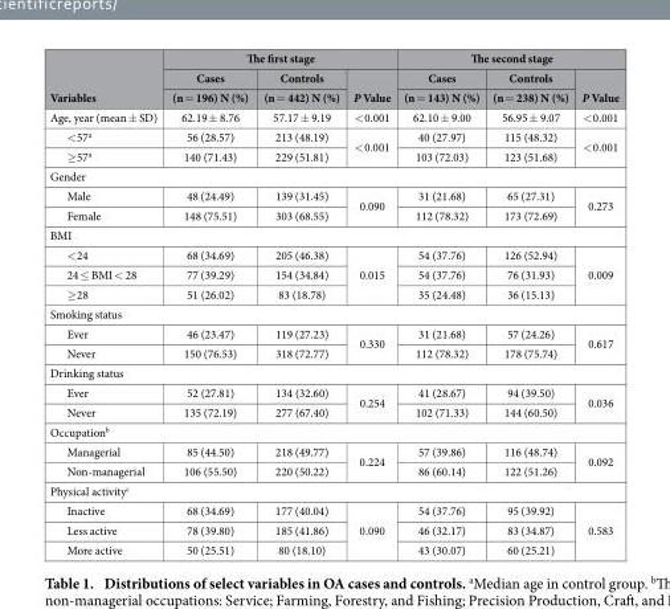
<table><thead><tr><td rowspan="3">Variables</td><td colspan="3">The first stage</td><td colspan="3">The second stage</td></tr><tr><td rowspan="2">Cases (n = 196) N (%)</td><td rowspan="2">Controls (n = 442) N (%)</td><td rowspan="2">P Value</td><td rowspan="2">Cases (n = 143) N (%)</td><td rowspan="2">Controls (n = 238) N (%)</td><td rowspan="2">P Value</td></tr><tr></tr></thead><tbody><tr><td>Age, year (mean ± SD)</td><td>62.19 ± 8.76</td><td>57.17 ± 9.19</td><td>&lt; 0.001</td><td>62.10 ± 9.00</td><td>56.95 ± 9.07</td><td>&lt; 0.001</td></tr><tr><td>&lt; 57<sup>a</sup></td><td>56 (28.57)</td><td>213 (48.19)</td><td rowspan="2">&lt; 0.001</td><td>40 (27.97)</td><td>115 (48.32)</td><td rowspan="2">&lt; 0.001</td></tr><tr><td>≥ 57<sup>a</sup></td><td>140 (71.43)</td><td>229 (51.81)</td><td>103 (72.03)</td><td>123 (51.68)</td></tr><tr><td colspan="7">Gender</td></tr><tr><td>Male</td><td>48 (24.49)</td><td>139 (31.45)</td><td rowspan="2">0.090</td><td>31 (21.68)</td><td>65 (27.31)</td><td rowspan="2">0.273</td></tr><tr><td>Female</td><td>148 (75.51)</td><td>303 (68.55)</td><td>112 (78.32)</td><td>173 (72.69)</td></tr><tr><td colspan="7">BMI</td></tr><tr><td>&lt; 24</td><td>68 (34.69)</td><td>205 (46.38)</td><td rowspan="3">0.015</td><td>54 (37.76)</td><td>126 (52.94)</td><td rowspan="3">0.009</td></tr><tr><td>24 ≤ BMI &lt; 28</td><td>77 (39.29)</td><td>154 (34.84)</td><td>54 (37.76)</td><td>76 (31.93)</td></tr><tr><td>≥ 28</td><td>51 (26.02)</td><td>83 (18.78)</td><td>35 (24.48)</td><td>36 (15.13)</td></tr><tr><td colspan="7">Smoking status</td></tr><tr><td>Ever</td><td>46 (23.47)</td><td>119 (27.23)</td><td rowspan="2">0.330</td><td>31 (21.68)</td><td>57 (24.26)</td><td rowspan="2">0.617</td></tr><tr><td>Never</td><td>150 (76.53)</td><td>318 (72.77)</td><td>112 (78.32)</td><td>178 (75.74)</td></tr><tr><td colspan="7">Drinking status</td></tr><tr><td>Ever</td><td>52 (27.81)</td><td>134 (32.60)</td><td rowspan="2">0.254</td><td>41 (28.67)</td><td>94 (39.50)</td><td rowspan="2">0.036</td></tr><tr><td>Never</td><td>135 (72.19)</td><td>277 (67.40)</td><td>102 (71.33)</td><td>144 (60.50)</td></tr><tr><td colspan="7">Occupation<sup>b</sup></td></tr><tr><td>Managerial</td><td>85 (44.50)</td><td>218 (49.77)</td><td rowspan="2">0.224</td><td>57 (39.86)</td><td>116 (48.74)</td><td rowspan="2">0.092</td></tr><tr><td>Non-managerial</td><td>106 (55.50)</td><td>220 (50.22)</td><td>86 (60.14)</td><td>122 (51.26)</td></tr><tr><td colspan="7">Physical activity<sup>c</sup></td></tr><tr><td>Inactive</td><td>68 (34.69)</td><td>177 (40.04)</td><td rowspan="3">0.090</td><td>54 (37.76)</td><td>95 (39.92)</td><td rowspan="3">0.583</td></tr><tr><td>Less active</td><td>78 (39.80)</td><td>185 (41.86)</td><td>46 (32.17)</td><td>83 (34.87)</td></tr><tr><td>More active</td><td>50 (25.51)</td><td>80 (18.10)</td><td>43 (30.07)</td><td>60 (25.21)</td></tr></tbody></table>